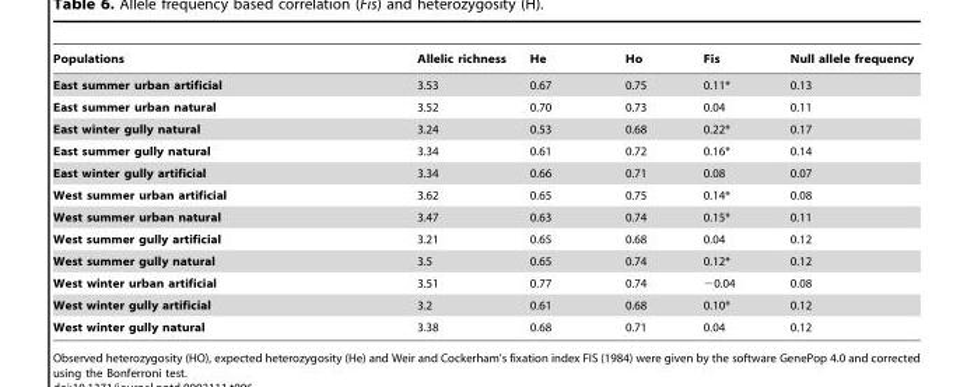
<table><thead><tr><td>Populations</td><td>Allelic richness</td><td>He</td><td>Ho</td><td>Fis</td><td>Null allele frequency</td></tr></thead><tbody><tr><td>East summer urban artificial</td><td>3.53</td><td>0.67</td><td>0.75</td><td>0.11*</td><td>0.13</td></tr><tr><td>East summer urban natural</td><td>3.52</td><td>0.70</td><td>0.73</td><td>0.04</td><td>0.11</td></tr><tr><td>East winter gully natural</td><td>3.24</td><td>0.53</td><td>0.68</td><td>0.22*</td><td>0.17</td></tr><tr><td>East summer gully natural</td><td>3.34</td><td>0.61</td><td>0.72</td><td>0.16*</td><td>0.14</td></tr><tr><td>East winter gully artificial</td><td>3.34</td><td>0.66</td><td>0.71</td><td>0.08</td><td>0.07</td></tr><tr><td>West summer urban artificial</td><td>3.62</td><td>0.65</td><td>0.75</td><td>0.14*</td><td>0.08</td></tr><tr><td>West summer urban natural</td><td>3.47</td><td>0.63</td><td>0.74</td><td>0.15*</td><td>0.11</td></tr><tr><td>West summer gully artificial</td><td>3.21</td><td>0.65</td><td>0.68</td><td>0.04</td><td>0.12</td></tr><tr><td>West summer gully natural</td><td>3.5</td><td>0.65</td><td>0.74</td><td>0.12*</td><td>0.12</td></tr><tr><td>West winter urban artificial</td><td>3.51</td><td>0.77</td><td>0.74</td><td>−0.04</td><td>0.08</td></tr><tr><td>West winter gully artificial</td><td>3.2</td><td>0.61</td><td>0.68</td><td>0.10*</td><td>0.12</td></tr><tr><td>West winter gully natural</td><td>3.38</td><td>0.68</td><td>0.71</td><td>0.04</td><td>0.12</td></tr></tbody></table>